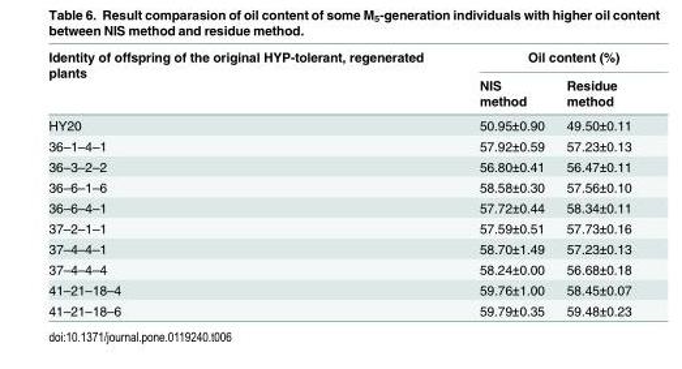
<table><thead><tr><td rowspan="2">Identity of offspring of the original HYP-tolerant, regenerated plants</td><td colspan="2">Oil content (%)</td></tr><tr><td>NIS method</td><td>Residue method</td></tr></thead><tbody><tr><td>HY20</td><td>50.95±0.90</td><td>49.50±0.11</td></tr><tr><td>36–1–4–1</td><td>57.92±0.59</td><td>57.23±0.13</td></tr><tr><td>36–3–2–2</td><td>56.80±0.41</td><td>56.47±0.11</td></tr><tr><td>36–6–1–6</td><td>58.58±0.30</td><td>57.56±0.10</td></tr><tr><td>36–6–4–1</td><td>57.72±0.44</td><td>58.34±0.11</td></tr><tr><td>37–2–1–1</td><td>57.59±0.51</td><td>57.73±0.16</td></tr><tr><td>37–4–4–1</td><td>58.70±1.49</td><td>57.23±0.13</td></tr><tr><td>37–4–4–4</td><td>58.24±0.00</td><td>56.68±0.18</td></tr><tr><td>41–21–18–4</td><td>59.76±1.00</td><td>58.45±0.07</td></tr><tr><td>41–21–18–6</td><td>59.79±0.35</td><td>59.48±0.23</td></tr></tbody></table>